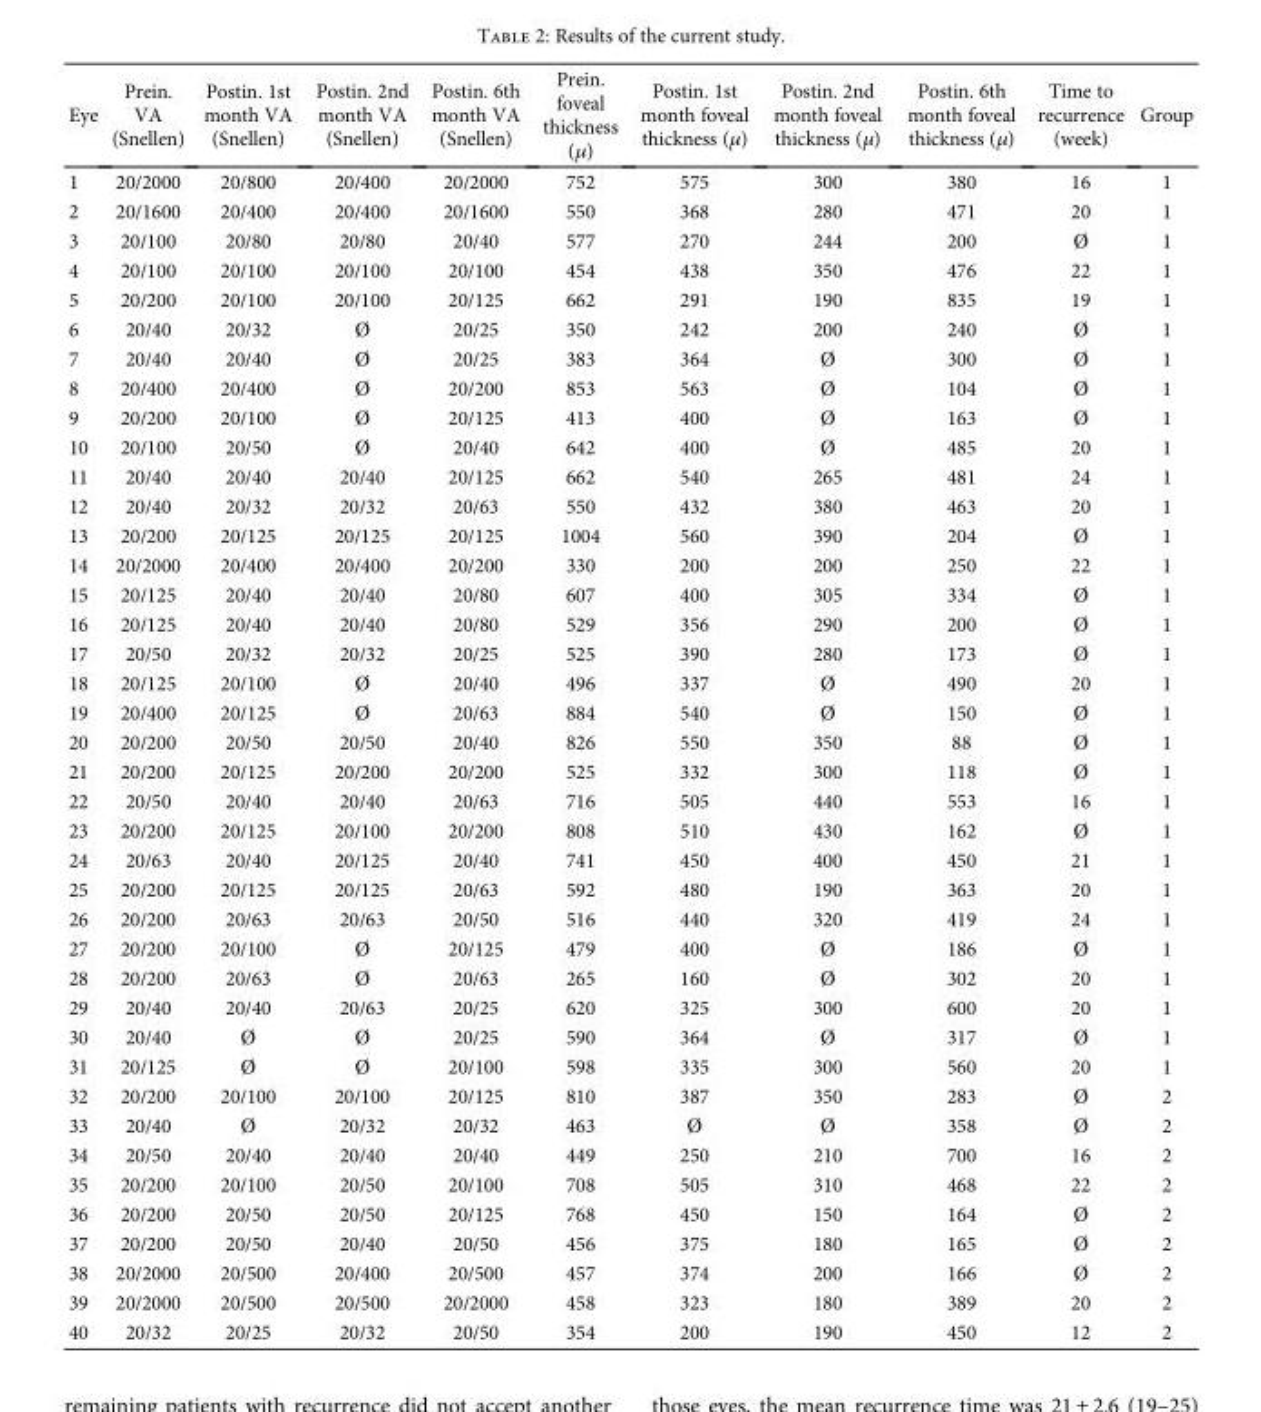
<table><thead><tr><td>Eye</td><td>Prein. VA (Snellen)</td><td>Postin. 1st month VA (Snellen)</td><td>Postin. 2nd month VA (Snellen)</td><td>Postin. 6th month VA (Snellen)</td><td>Prein. foveal thickness (μ)</td><td>Postin. 1st month foveal thickness (μ)</td><td>Postin. 2nd month foveal thickness (μ)</td><td>Postin. 6th month foveal thickness (μ)</td><td>Time to recurrence (week)</td><td>Group</td></tr></thead><tbody><tr><td>1</td><td>20/2000</td><td>20/800</td><td>20/400</td><td>20/2000</td><td>752</td><td>575</td><td>300</td><td>380</td><td>16</td><td>1</td></tr><tr><td>2</td><td>20/1600</td><td>20/400</td><td>20/400</td><td>20/1600</td><td>550</td><td>368</td><td>280</td><td>471</td><td>20</td><td>1</td></tr><tr><td>3</td><td>20/100</td><td>20/80</td><td>20/80</td><td>20/40</td><td>577</td><td>270</td><td>244</td><td>200</td><td>Ø</td><td>1</td></tr><tr><td>4</td><td>20/100</td><td>20/100</td><td>20/100</td><td>20/100</td><td>454</td><td>438</td><td>350</td><td>476</td><td>22</td><td>1</td></tr><tr><td>5</td><td>20/200</td><td>20/100</td><td>20/100</td><td>20/125</td><td>662</td><td>291</td><td>190</td><td>835</td><td>19</td><td>1</td></tr><tr><td>6</td><td>20/40</td><td>20/32</td><td>Ø</td><td>20/25</td><td>350</td><td>242</td><td>200</td><td>240</td><td>Ø</td><td>1</td></tr><tr><td>7</td><td>20/40</td><td>20/40</td><td>Ø</td><td>20/25</td><td>383</td><td>364</td><td>Ø</td><td>300</td><td>Ø</td><td>1</td></tr><tr><td>8</td><td>20/400</td><td>20/400</td><td>Ø</td><td>20/200</td><td>853</td><td>563</td><td>Ø</td><td>104</td><td>Ø</td><td>1</td></tr><tr><td>9</td><td>20/200</td><td>20/100</td><td>Ø</td><td>20/125</td><td>413</td><td>400</td><td>Ø</td><td>163</td><td>Ø</td><td>1</td></tr><tr><td>10</td><td>20/100</td><td>20/50</td><td>Ø</td><td>20/40</td><td>642</td><td>400</td><td>Ø</td><td>485</td><td>20</td><td>1</td></tr><tr><td>11</td><td>20/40</td><td>20/40</td><td>20/40</td><td>20/125</td><td>662</td><td>540</td><td>265</td><td>481</td><td>24</td><td>1</td></tr><tr><td>12</td><td>20/40</td><td>20/32</td><td>20/32</td><td>20/63</td><td>550</td><td>432</td><td>380</td><td>463</td><td>20</td><td>1</td></tr><tr><td>13</td><td>20/200</td><td>20/125</td><td>20/125</td><td>20/125</td><td>1004</td><td>560</td><td>390</td><td>204</td><td>Ø</td><td>1</td></tr><tr><td>14</td><td>20/2000</td><td>20/400</td><td>20/400</td><td>20/200</td><td>330</td><td>200</td><td>200</td><td>250</td><td>22</td><td>1</td></tr><tr><td>15</td><td>20/125</td><td>20/40</td><td>20/40</td><td>20/80</td><td>607</td><td>400</td><td>305</td><td>334</td><td>Ø</td><td>1</td></tr><tr><td>16</td><td>20/125</td><td>20/40</td><td>20/40</td><td>20/80</td><td>529</td><td>356</td><td>290</td><td>200</td><td>Ø</td><td>1</td></tr><tr><td>17</td><td>20/50</td><td>20/32</td><td>20/32</td><td>20/25</td><td>525</td><td>390</td><td>280</td><td>173</td><td>Ø</td><td>1</td></tr><tr><td>18</td><td>20/125</td><td>20/100</td><td>Ø</td><td>20/40</td><td>496</td><td>337</td><td>Ø</td><td>490</td><td>20</td><td>1</td></tr><tr><td>19</td><td>20/400</td><td>20/125</td><td>Ø</td><td>20/63</td><td>884</td><td>540</td><td>Ø</td><td>150</td><td>Ø</td><td>1</td></tr><tr><td>20</td><td>20/200</td><td>20/50</td><td>20/50</td><td>20/40</td><td>826</td><td>550</td><td>350</td><td>88</td><td>Ø</td><td>1</td></tr><tr><td>21</td><td>20/200</td><td>20/125</td><td>20/200</td><td>20/200</td><td>525</td><td>332</td><td>300</td><td>118</td><td>Ø</td><td>1</td></tr><tr><td>22</td><td>20/50</td><td>20/40</td><td>20/40</td><td>20/63</td><td>716</td><td>505</td><td>440</td><td>553</td><td>16</td><td>1</td></tr><tr><td>23</td><td>20/200</td><td>20/125</td><td>20/100</td><td>20/200</td><td>808</td><td>510</td><td>430</td><td>162</td><td>Ø</td><td>1</td></tr><tr><td>24</td><td>20/63</td><td>20/40</td><td>20/125</td><td>20/40</td><td>741</td><td>450</td><td>400</td><td>450</td><td>21</td><td>1</td></tr><tr><td>25</td><td>20/200</td><td>20/125</td><td>20/125</td><td>20/63</td><td>592</td><td>480</td><td>190</td><td>363</td><td>20</td><td>1</td></tr><tr><td>26</td><td>20/200</td><td>20/63</td><td>20/63</td><td>20/50</td><td>516</td><td>440</td><td>320</td><td>419</td><td>24</td><td>1</td></tr><tr><td>27</td><td>20/200</td><td>20/100</td><td>Ø</td><td>20/125</td><td>479</td><td>400</td><td>Ø</td><td>186</td><td>Ø</td><td>1</td></tr><tr><td>28</td><td>20/200</td><td>20/63</td><td>Ø</td><td>20/63</td><td>265</td><td>160</td><td>Ø</td><td>302</td><td>20</td><td>1</td></tr><tr><td>29</td><td>20/40</td><td>20/40</td><td>20/63</td><td>20/25</td><td>620</td><td>325</td><td>300</td><td>600</td><td>20</td><td>1</td></tr><tr><td>30</td><td>20/40</td><td>Ø</td><td>Ø</td><td>20/25</td><td>590</td><td>364</td><td>Ø</td><td>317</td><td>Ø</td><td>1</td></tr><tr><td>31</td><td>20/125</td><td>Ø</td><td>Ø</td><td>20/100</td><td>598</td><td>335</td><td>300</td><td>560</td><td>20</td><td>1</td></tr><tr><td>32</td><td>20/200</td><td>20/100</td><td>20/100</td><td>20/125</td><td>810</td><td>387</td><td>350</td><td>283</td><td>Ø</td><td>2</td></tr><tr><td>33</td><td>20/40</td><td>Ø</td><td>20/32</td><td>20/32</td><td>463</td><td>Ø</td><td>Ø</td><td>358</td><td>Ø</td><td>2</td></tr><tr><td>34</td><td>20/50</td><td>20/40</td><td>20/40</td><td>20/40</td><td>449</td><td>250</td><td>210</td><td>700</td><td>16</td><td>2</td></tr><tr><td>35</td><td>20/200</td><td>20/100</td><td>20/50</td><td>20/100</td><td>708</td><td>505</td><td>310</td><td>468</td><td>22</td><td>2</td></tr><tr><td>36</td><td>20/200</td><td>20/50</td><td>20/50</td><td>20/125</td><td>768</td><td>450</td><td>150</td><td>164</td><td>Ø</td><td>2</td></tr><tr><td>37</td><td>20/200</td><td>20/50</td><td>20/40</td><td>20/50</td><td>456</td><td>375</td><td>180</td><td>165</td><td>Ø</td><td>2</td></tr><tr><td>38</td><td>20/2000</td><td>20/500</td><td>20/400</td><td>20/500</td><td>457</td><td>374</td><td>200</td><td>166</td><td>Ø</td><td>2</td></tr><tr><td>39</td><td>20/2000</td><td>20/500</td><td>20/500</td><td>20/2000</td><td>458</td><td>323</td><td>180</td><td>389</td><td>20</td><td>2</td></tr><tr><td>40</td><td>20/32</td><td>20/25</td><td>20/32</td><td>20/50</td><td>354</td><td>200</td><td>190</td><td>450</td><td>12</td><td>2</td></tr></tbody></table>